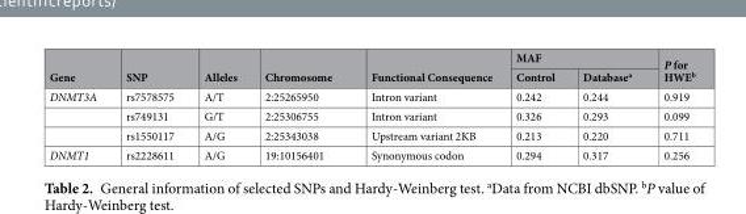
<table><thead><tr><td rowspan="2">Gene</td><td rowspan="2">SNP</td><td rowspan="2">Alleles</td><td rowspan="2">Chromosome</td><td rowspan="2">Functional Consequence</td><td colspan="2">MAF</td><td rowspan="2">P for HWE<sup>b</sup></td></tr><tr><td>Control</td><td>Database<sup>a</sup></td></tr></thead><tbody><tr><td rowspan="3">DNMT3A</td><td>rs7578575</td><td>A/T</td><td>2:25265950</td><td>Intron variant</td><td>0.242</td><td>0.244</td><td>0.919</td></tr><tr><td>rs749131</td><td>G/T</td><td>2:25306755</td><td>Intron variant</td><td>0.326</td><td>0.293</td><td>0.099</td></tr><tr><td>rs1550117</td><td>A/G</td><td>2:25343038</td><td>Upstream variant 2KB</td><td>0.213</td><td>0.220</td><td>0.711</td></tr><tr><td>DNMT1</td><td>rs2228611</td><td>A/G</td><td>19:10156401</td><td>Synonymous codon</td><td>0.294</td><td>0.317</td><td>0.256</td></tr></tbody></table>